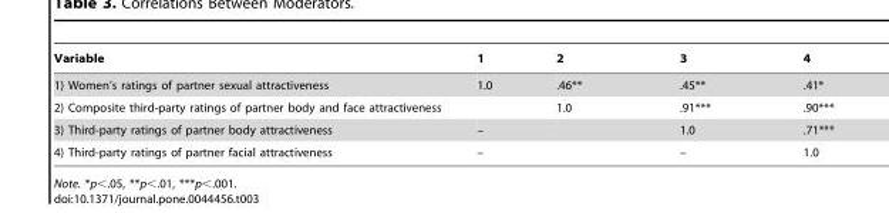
<table><thead><tr><td>Variable</td><td>1</td><td>2</td><td>3</td><td>4</td></tr></thead><tbody><tr><td>1) Women’s ratings of partner sexual attractiveness</td><td>1.0</td><td>.46**</td><td>.45**</td><td>.41*</td></tr><tr><td>2) Composite third-party ratings of partner body and face attractiveness</td><td></td><td>1.0</td><td>.91***</td><td>.90***</td></tr><tr><td>3) Third-party ratings of partner body attractiveness</td><td>–</td><td></td><td>1.0</td><td>.71***</td></tr><tr><td>4) Third-party ratings of partner facial attractiveness</td><td>–</td><td></td><td>–</td><td>1.0</td></tr></tbody></table>